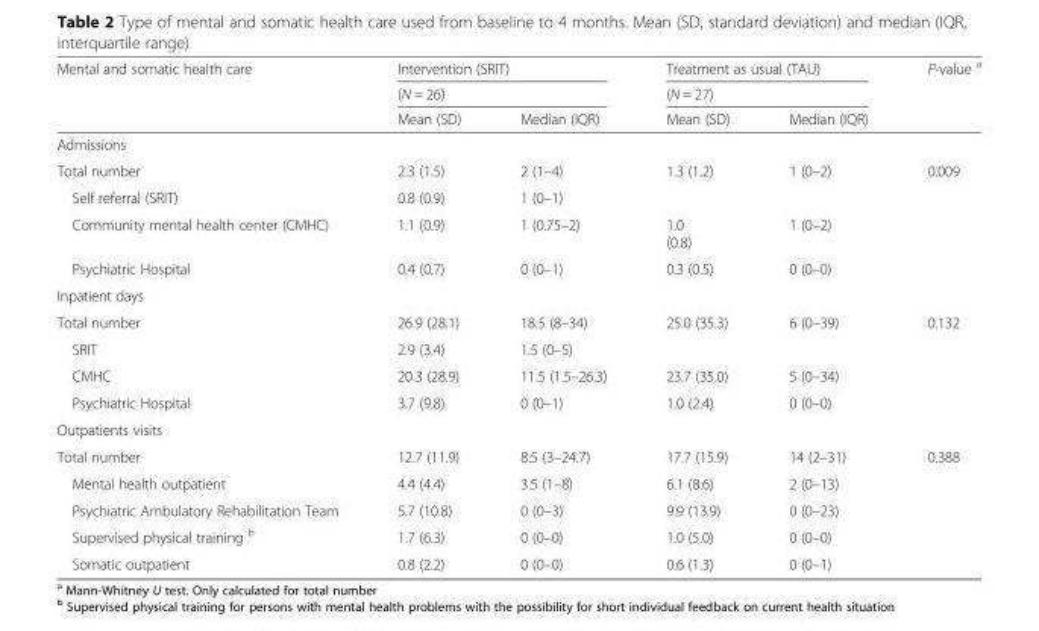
<table><thead><tr><td rowspan="3">Mental and somatic health care</td><td rowspan="2" colspan="2">Intervention (SRIT) (N = 26)</td><td rowspan="2" colspan="2">Treatment as usual (TAU) (N = 27)</td><td rowspan="3">P-value <sup>a</sup></td></tr><tr></tr><tr><td>Mean (SD)</td><td>Median (IQR)</td><td>Mean (SD)</td><td>Median (IQR)</td></tr></thead><tbody><tr><td colspan="6">Admissions</td></tr><tr><td>Total number</td><td>2.3 (1.5)</td><td>2 (1–4)</td><td>1.3 (1.2)</td><td>1 (0–2)</td><td>0.009</td></tr><tr><td>Self referral (SRIT)</td><td>0.8 (0.9)</td><td>1 (0–1)</td><td></td><td></td><td></td></tr><tr><td>Community mental health center (CMHC)</td><td>1.1 (0.9)</td><td>1 (0.75–2)</td><td>1.0 (0.8)</td><td>1 (0–2)</td><td></td></tr><tr><td>Psychiatric Hospital</td><td>0.4 (0.7)</td><td>0 (0–1)</td><td>0.3 (0.5)</td><td>0 (0–0)</td><td></td></tr><tr><td colspan="6">Inpatient days</td></tr><tr><td>Total number</td><td>26.9 (28.1)</td><td>18.5 (8–34)</td><td>25.0 (35.3)</td><td>6 (0–39)</td><td>0.132</td></tr><tr><td>SRIT</td><td>2.9 (3.4)</td><td>1.5 (0–5)</td><td></td><td></td><td></td></tr><tr><td>CMHC</td><td>20.3 (28.9)</td><td>11.5 (1.5–26.3)</td><td>23.7 (35.0)</td><td>5 (0–34)</td><td></td></tr><tr><td>Psychiatric Hospital</td><td>3.7 (9.8)</td><td>0 (0–1)</td><td>1.0 (2.4)</td><td>0 (0–0)</td><td></td></tr><tr><td colspan="6">Outpatients visits</td></tr><tr><td>Total number</td><td>12.7 (11.9)</td><td>8.5 (3–24.7)</td><td>17.7 (15.9)</td><td>14 (2–31)</td><td>0.388</td></tr><tr><td>Mental health outpatient</td><td>4.4 (4.4)</td><td>3.5 (1–8)</td><td>6.1 (8.6)</td><td>2 (0–13)</td><td></td></tr><tr><td>Psychiatric Ambulatory Rehabilitation Team</td><td>5.7 (10.8)</td><td>0 (0–3)</td><td>9.9 (13.9)</td><td>0 (0–23)</td><td></td></tr><tr><td>Supervised physical training <sup>b</sup></td><td>1.7 (6.3)</td><td>0 (0–0)</td><td>1.0 (5.0)</td><td>0 (0–0)</td><td></td></tr><tr><td>Somatic outpatient</td><td>0.8 (2.2)</td><td>0 (0–0)</td><td>0.6 (1.3)</td><td>0 (0–1)</td><td></td></tr></tbody></table>